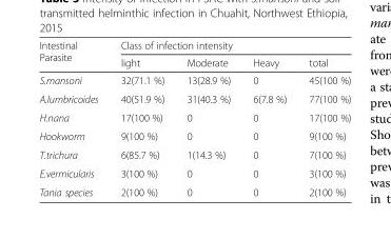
<table><thead><tr><td rowspan="2">Intestinal Parasite</td><td colspan="4">Class of infection intensity</td></tr><tr><td>light</td><td>Moderate</td><td>Heavy</td><td>total</td></tr></thead><tbody><tr><td>S.mansoni</td><td>32(71.1 %)</td><td>13(28.9 %)</td><td>0</td><td>45(100 %)</td></tr><tr><td>A.lumbricoides</td><td>40(51.9 %)</td><td>31(40.3 %)</td><td>6(7.8 %)</td><td>77(100 %)</td></tr><tr><td>H.nana</td><td>17(100 %)</td><td>0</td><td>0</td><td>17(100 %)</td></tr><tr><td>Hookworm</td><td>9(100 %)</td><td>0</td><td>0</td><td>9(100 %)</td></tr><tr><td>T.trichura</td><td>6(85.7 %)</td><td>1(14.3 %)</td><td>0</td><td>7(100 %)</td></tr><tr><td>E.vermicularis</td><td>3(100 %)</td><td>0</td><td>0</td><td>3(100 %)</td></tr><tr><td>Tania species</td><td>2(100 %)</td><td>0</td><td>0</td><td>2(100 %)</td></tr></tbody></table>